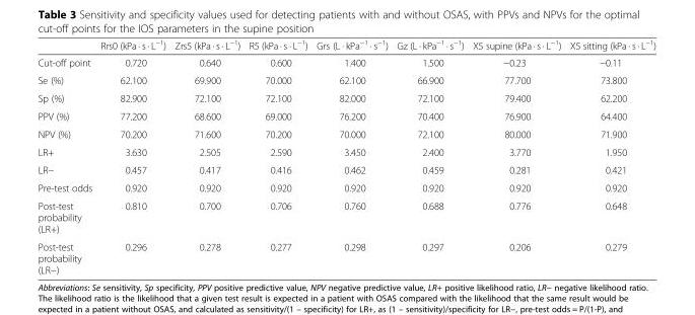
<table><thead><tr><td></td><td>Rrs0 (kPa · s · L<sup>−1</sup>)</td><td>Zrs5 (kPa · s · L<sup>−1</sup>)</td><td>R5 (kPa · s · L<sup>−1</sup>)</td><td>Grs (L · kPa<sup>−1</sup> · s<sup>−1</sup>)</td><td>Gz (L · kPa<sup>−1</sup> · s<sup>−1</sup>)</td><td>X5 supine (kPa · s · L<sup>−1</sup>)</td><td>X5 sitting (kPa · s · L<sup>−1</sup>)</td></tr></thead><tbody><tr><td>Cut-off point</td><td>0.720</td><td>0.640</td><td>0.600</td><td>1.400</td><td>1.500</td><td>−0.23</td><td>−0.11</td></tr><tr><td>Se (%)</td><td>62.100</td><td>69.900</td><td>70.000</td><td>62.100</td><td>66.900</td><td>77.700</td><td>73.800</td></tr><tr><td>Sp (%)</td><td>82.900</td><td>72.100</td><td>72.100</td><td>82.000</td><td>72.100</td><td>79.400</td><td>62.200</td></tr><tr><td>PPV (%)</td><td>77.200</td><td>68.600</td><td>69.000</td><td>76.200</td><td>70.400</td><td>76.900</td><td>64.400</td></tr><tr><td>NPV (%)</td><td>70.200</td><td>71.600</td><td>70.200</td><td>70.000</td><td>72.100</td><td>80.000</td><td>71.900</td></tr><tr><td>LR+</td><td>3.630</td><td>2.505</td><td>2.590</td><td>3.450</td><td>2.400</td><td>3.770</td><td>1.950</td></tr><tr><td>LR−</td><td>0.457</td><td>0.417</td><td>0.416</td><td>0.462</td><td>0.459</td><td>0.281</td><td>0.421</td></tr><tr><td>Pre-test odds</td><td>0.920</td><td>0.920</td><td>0.920</td><td>0.920</td><td>0.920</td><td>0.920</td><td>0.920</td></tr><tr><td>Post-test probability (LR+)</td><td>0.810</td><td>0.700</td><td>0.706</td><td>0.760</td><td>0.688</td><td>0.776</td><td>0.648</td></tr><tr><td>Post-test probability (LR−)</td><td>0.296</td><td>0.278</td><td>0.277</td><td>0.298</td><td>0.297</td><td>0.206</td><td>0.279</td></tr></tbody></table>